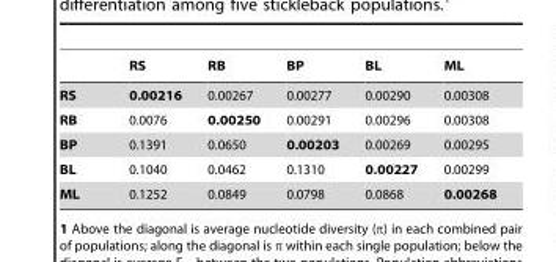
<table><thead><tr><td></td><td>RS</td><td>RB</td><td>BP</td><td>BL</td><td>ML</td></tr></thead><tbody><tr><td>RS</td><td>0.00216</td><td>0.00267</td><td>0.00277</td><td>0.00290</td><td>0.00308</td></tr><tr><td>RB</td><td>0.0076</td><td>0.00250</td><td>0.00291</td><td>0.00296</td><td>0.00308</td></tr><tr><td>BP</td><td>0.1391</td><td>0.0650</td><td>0.00203</td><td>0.00269</td><td>0.00295</td></tr><tr><td>BL</td><td>0.1040</td><td>0.0462</td><td>0.1310</td><td>0.00227</td><td>0.00299</td></tr><tr><td>ML</td><td>0.1252</td><td>0.0849</td><td>0.0798</td><td>0.0868</td><td>0.00268</td></tr></tbody></table>